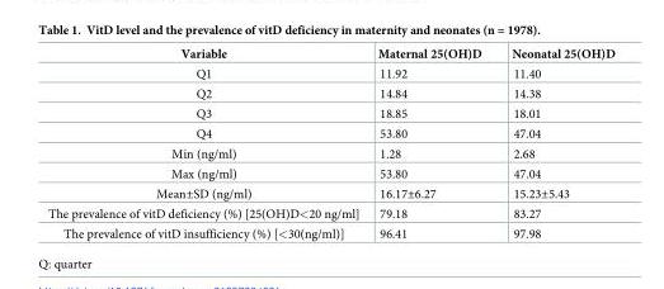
<table><thead><tr><td>Variable</td><td>Maternal 25(OH)D</td><td>Neonatal 25(OH)D</td></tr></thead><tbody><tr><td>Q1</td><td>11.92</td><td>11.40</td></tr><tr><td>Q2</td><td>14.84</td><td>14.38</td></tr><tr><td>Q3</td><td>18.85</td><td>18.01</td></tr><tr><td>Q4</td><td>53.80</td><td>47.04</td></tr><tr><td>Min (ng/ml)</td><td>1.28</td><td>2.68</td></tr><tr><td>Max (ng/ml)</td><td>53.80</td><td>47.04</td></tr><tr><td>Mean±SD (ng/ml)</td><td>16.17±6.27</td><td>15.23±5.43</td></tr><tr><td>The prevalence of vitD deficiency (%) [25(OH)D&lt;20 ng/ml]</td><td>79.18</td><td>83.27</td></tr><tr><td>The prevalence of vitD insufficiency (%) [&lt;30(ng/ml)]</td><td>96.41</td><td>97.98</td></tr></tbody></table>